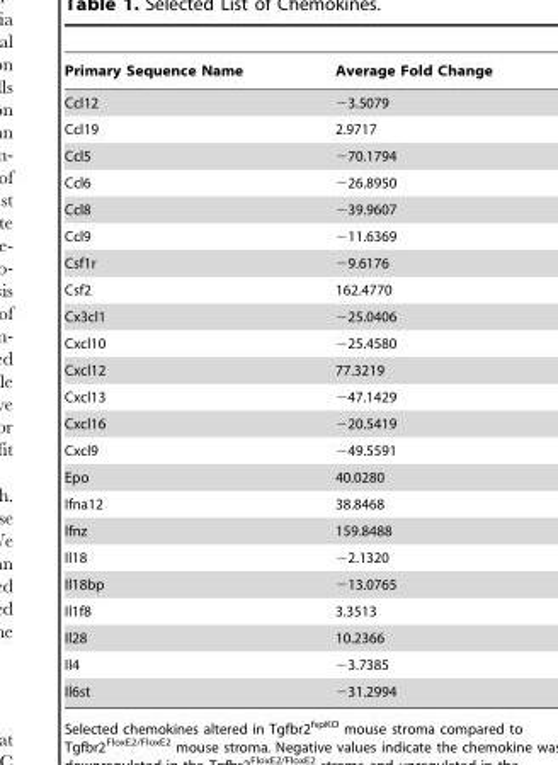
<table><thead><tr><td>Primary Sequence Name</td><td>Average Fold Change</td></tr></thead><tbody><tr><td>Ccl12</td><td>−3.5079</td></tr><tr><td>Ccl19</td><td>2.9717</td></tr><tr><td>Ccl5</td><td>−70.1794</td></tr><tr><td>Ccl6</td><td>−26.8950</td></tr><tr><td>Ccl8</td><td>−39.9607</td></tr><tr><td>Ccl9</td><td>−11.6369</td></tr><tr><td>Csf1r</td><td>−9.6176</td></tr><tr><td>Csf2</td><td>162.4770</td></tr><tr><td>Cx3cl1</td><td>−25.0406</td></tr><tr><td>Cxcl10</td><td>−25.4580</td></tr><tr><td>Cxcl12</td><td>77.3219</td></tr><tr><td>Cxcl13</td><td>−47.1429</td></tr><tr><td>Cxcl16</td><td>−20.5419</td></tr><tr><td>Cxcl9</td><td>−49.5591</td></tr><tr><td>Epo</td><td>40.0280</td></tr><tr><td>Ifna12</td><td>38.8468</td></tr><tr><td>Ifnz</td><td>159.8488</td></tr><tr><td>Il18</td><td>−2.1320</td></tr><tr><td>Il18bp</td><td>−13.0765</td></tr><tr><td>Il1f8</td><td>3.3513</td></tr><tr><td>Il28</td><td>10.2366</td></tr><tr><td>Il4</td><td>−3.7385</td></tr><tr><td>Il6st</td><td>−31.2994</td></tr></tbody></table>